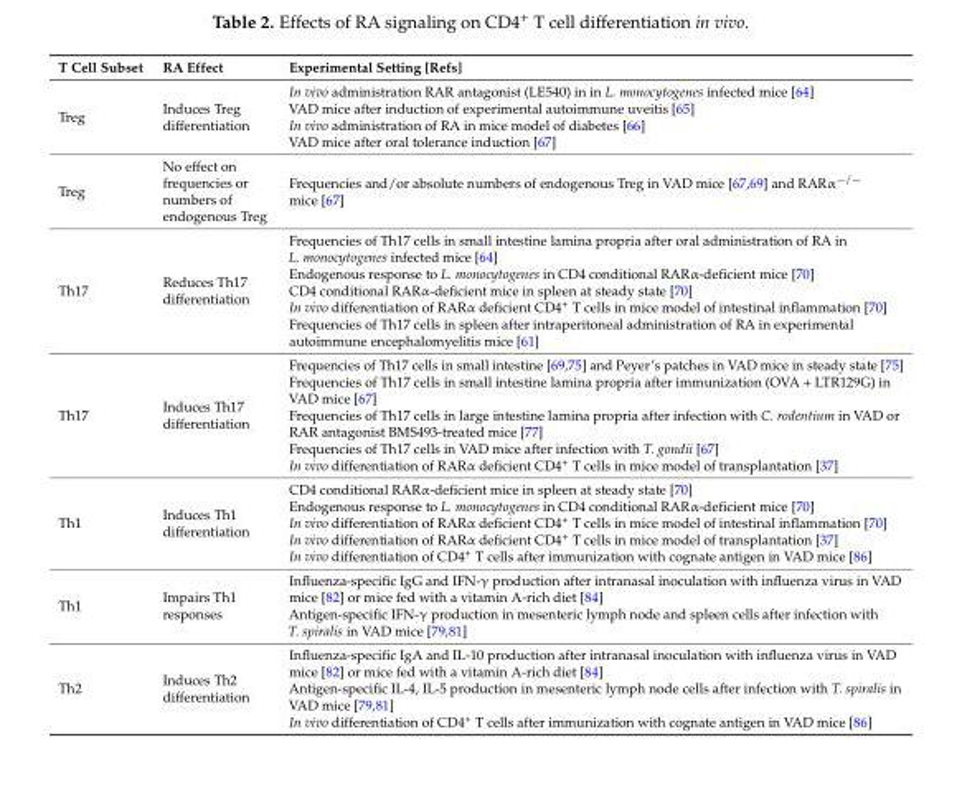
<table><thead><tr><td>T Cell Subset</td><td>RA Effect</td><td>Experimental Setting [Refs]</td></tr></thead><tbody><tr><td>Treg</td><td>Induces Treg differentiation</td><td>In vivo administration RAR antagonist (LE540) in in L. monocytogenes infected mice [64] VAD mice after induction of experimental autoimmune uveitis [65] In vivo administration of RA in mice model of diabetes [66] VAD mice after oral tolerance induction [67]</td></tr><tr><td>Treg</td><td>No effect on frequencies or numbers of endogenous Treg</td><td>Frequencies and/or absolute numbers of endogenous Treg in VAD mice [67,69] and RARα<sup>−/−</sup> mice [67]</td></tr><tr><td>Th17</td><td>Reduces Th17 differentiation</td><td>Frequencies of Th17 cells in small intestine lamina propria after oral administration of RA in L. monocytogenes infected mice [64] Endogenous response to L. monocytogenes in CD4 conditional RARα-deficient mice [70] CD4 conditional RARα-deficient mice in spleen at steady state [70] In vivo differentiation of RARα deficient CD4<sup>+</sup> T cells in mice model of intestinal inflammation [70] Frequencies of Th17 cells in spleen after intraperitoneal administration of RA in experimental autoimmune encephalomyelitis mice [61]</td></tr><tr><td>Th17</td><td>Induces Th17 differentiation</td><td>Frequencies of Th17 cells in small intestine [69,75] and Peyer’s patches in VAD mice in steady state [75] Frequencies of Th17 cells in small intestine lamina propria after immunization (OVA + LTR129G) in VAD mice [67] Frequencies of Th17 cells in large intestine lamina propria after infection with C. rodentium in VAD or RAR antagonist BMS493-treated mice [77] Frequencies of Th17 cells in VAD mice after infection with T. gondii [67] In vivo differentiation of RARα deficient CD4<sup>+</sup> T cells in mice model of transplantation [37]</td></tr><tr><td>Th1</td><td>Induces Th1 differentiation</td><td>CD4 conditional RARα-deficient mice in spleen at steady state [70] Endogenous response to L. monocytogenes in CD4 conditional RARα-deficient mice [70] In vivo differentiation of RARα deficient CD4<sup>+</sup> T cells in mice model of intestinal inflammation [70] In vivo differentiation of RARα deficient CD4<sup>+</sup> T cells in mice model of transplantation [37] In vivo differentiation of CD4<sup>+</sup> T cells after immunization with cognate antigen in VAD mice [86]</td></tr><tr><td>Th1</td><td>Impairs Th1 responses</td><td>Influenza-specific IgG and IFN-γ production after intranasal inoculation with influenza virus in VAD mice [82] or mice fed with a vitamin A-rich diet [84] Antigen-specific IFN-γ production in mesenteric lymph node and spleen cells after infection with T. spiralis in VAD mice [79,81]</td></tr><tr><td>Th2</td><td>Induces Th2 differentiation</td><td>Influenza-specific IgA and IL-10 production after intranasal inoculation with influenza virus in VAD mice [82] or mice fed with a vitamin A-rich diet [84] Antigen-specific IL-4, IL-5 production in mesenteric lymph node cells after infection with T. spiralis in VAD mice [79,81] In vivo differentiation of CD4<sup>+</sup> T cells after immunization with cognate antigen in VAD mice [86]</td></tr></tbody></table>